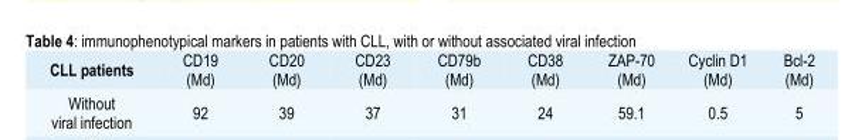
<table><thead><tr><td>CLL patients</td><td>CD19 (Md)</td><td>CD20 (Md)</td><td>CD23 (Md)</td><td>CD79b (Md)</td><td>CD38 (Md)</td><td>ZAP-70 (Md)</td><td>Cyclin D1 (Md)</td><td>Bcl-2 (Md)</td></tr></thead><tbody></tbody></table>